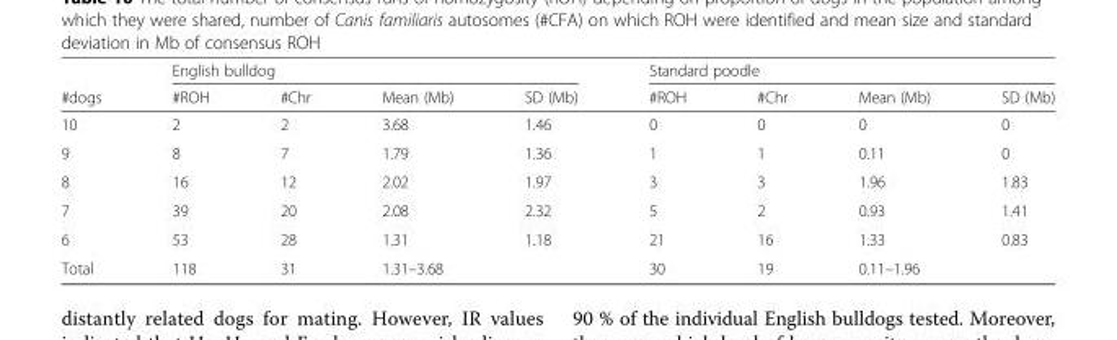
<table><thead><tr><td rowspan="2">#dogs</td><td colspan="4">English bulldog</td><td colspan="4">Standard poodle</td></tr><tr><td>#ROH</td><td>#Chr</td><td>Mean (Mb)</td><td>SD (Mb)</td><td>#ROH</td><td>#Chr</td><td>Mean (Mb)</td><td>SD (Mb)</td></tr></thead><tbody><tr><td>10</td><td>2</td><td>2</td><td>3.68</td><td>1.46</td><td>0</td><td>0</td><td>0</td><td>0</td></tr><tr><td>9</td><td>8</td><td>7</td><td>1.79</td><td>1.36</td><td>1</td><td>1</td><td>0.11</td><td>0</td></tr><tr><td>8</td><td>16</td><td>12</td><td>2.02</td><td>1.97</td><td>3</td><td>3</td><td>1.96</td><td>1.83</td></tr><tr><td>7</td><td>39</td><td>20</td><td>2.08</td><td>2.32</td><td>5</td><td>2</td><td>0.93</td><td>1.41</td></tr><tr><td>6</td><td>53</td><td>28</td><td>1.31</td><td>1.18</td><td>21</td><td>16</td><td>1.33</td><td>0.83</td></tr><tr><td>Total</td><td>118</td><td>31</td><td>1.31–3.68</td><td></td><td>30</td><td>19</td><td>0.11–1.96</td><td></td></tr></tbody></table>